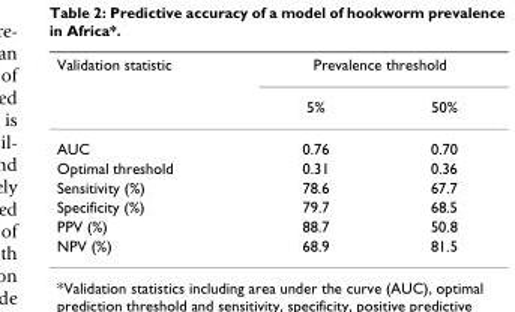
<table><thead><tr><td rowspan="2">Validation statistic</td><td colspan="2">Prevalence threshold</td></tr><tr><td>5%</td><td>50%</td></tr></thead><tbody><tr><td>AUC</td><td>0.76</td><td>0.70</td></tr><tr><td>Optimal threshold</td><td>0.31</td><td>0.36</td></tr><tr><td>Sensitivity (%)</td><td>78.6</td><td>67.7</td></tr><tr><td>Specificity (%)</td><td>79.7</td><td>68.5</td></tr><tr><td>PPV (%)</td><td>88.7</td><td>50.8</td></tr><tr><td>NPV (%)</td><td>68.9</td><td>81.5</td></tr></tbody></table>